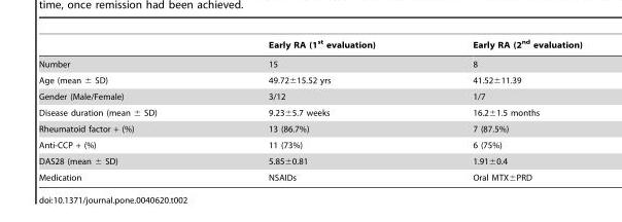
<table><thead><tr><td></td><td>Early RA (1<sup>st</sup> evaluation)</td><td>Early RA (2<sup>nd</sup> evaluation)</td></tr></thead><tbody><tr><td>Number</td><td>15</td><td>8</td></tr><tr><td>Age (mean ± SD)</td><td>49.72±15.52 yrs</td><td>41.52±11.39</td></tr><tr><td>Gender (Male/Female)</td><td>3/12</td><td>1/7</td></tr><tr><td>Disease duration (mean ± SD)</td><td>9.23±5.7 weeks</td><td>16.2±1.5 months</td></tr><tr><td>Rheumatoid factor + (%)</td><td>13 (86.7%)</td><td>7 (87.5%)</td></tr><tr><td>Anti-CCP + (%)</td><td>11 (73%)</td><td>6 (75%)</td></tr><tr><td>DAS28 (mean ± SD)</td><td>5.85±0.81</td><td>1.91±0.4</td></tr><tr><td>Medication</td><td>NSAIDs</td><td>Oral MTX±PRD</td></tr></tbody></table>